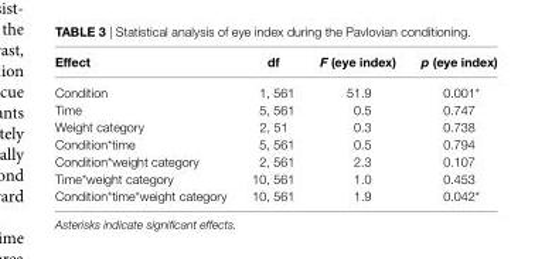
<table><thead><tr><td>effect</td><td>df</td><td>F (eye index)</td><td>p (eye index)</td></tr></thead><tbody><tr><td>Condition</td><td>1, 561</td><td>51.9</td><td>0.001*</td></tr><tr><td>Time</td><td>5, 561</td><td>0.5</td><td>0.747</td></tr><tr><td>Weight category</td><td>2, 51</td><td>0.3</td><td>0.738</td></tr><tr><td>Condition*time</td><td>5, 561</td><td>0.5</td><td>0.794</td></tr><tr><td>Condition*weight category</td><td>2, 561</td><td>2.3</td><td>0.107</td></tr><tr><td>Time*weight category</td><td>10, 561</td><td>1.0</td><td>0.453</td></tr><tr><td>Condition*time*weight category</td><td>10, 561</td><td>1.9</td><td>0.042*</td></tr></tbody></table>